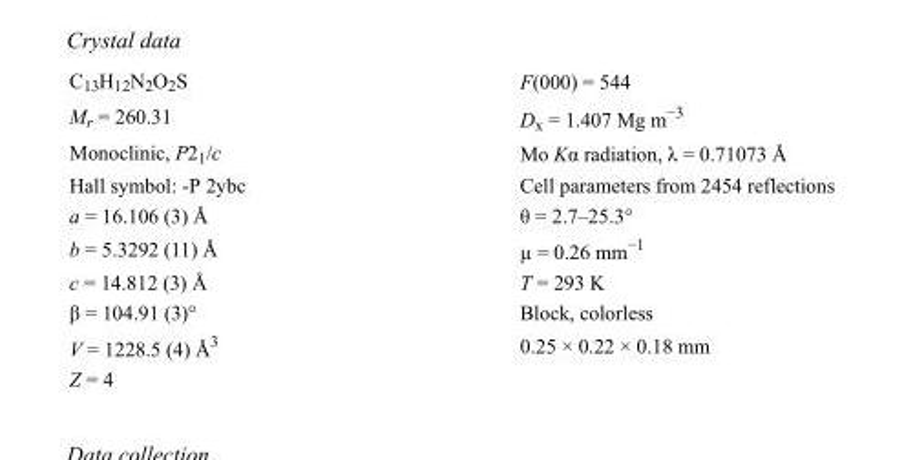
<table><tbody><tr><td>C<sub>13</sub>H<sub>12</sub>N<sub>2</sub>O<sub>2</sub>S</td><td>F(000) = 544</td></tr><tr><td>M<sub>r</sub> = 260.31</td><td>D<sub>x</sub> = 1.407 Mg m<sup>−3</sup></td></tr><tr><td>Monoclinic, P2<sub>1</sub>/c</td><td>Mo Kα radiation, λ = 0.71073 Å</td></tr><tr><td>Hall symbol: -P 2ybc</td><td>Cell parameters from 2454 reflections</td></tr><tr><td>a = 16.106 (3) Å</td><td>θ = 2.7–25.3°</td></tr><tr><td>b = 5.3292 (11) Å</td><td>µ = 0.26 mm<sup>−1</sup></td></tr><tr><td>c = 14.812 (3) Å</td><td>T = 293 K</td></tr><tr><td>β = 104.91 (3)°</td><td>Block, colorless</td></tr><tr><td>V = 1228.5 (4) Å<sup>3</sup></td><td>0.25 × 0.22 × 0.18 mm</td></tr><tr><td>Z = 4</td><td></td></tr></tbody></table>